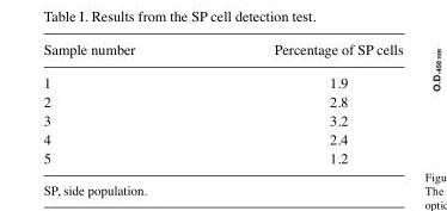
<table><thead><tr><td>Sample number</td><td>Percentage of SP cells</td></tr></thead><tbody><tr><td>1</td><td>1.9</td></tr><tr><td>2</td><td>2.8</td></tr><tr><td>3</td><td>3.2</td></tr><tr><td>4</td><td>2.4</td></tr><tr><td>5</td><td>1.2</td></tr></tbody></table>